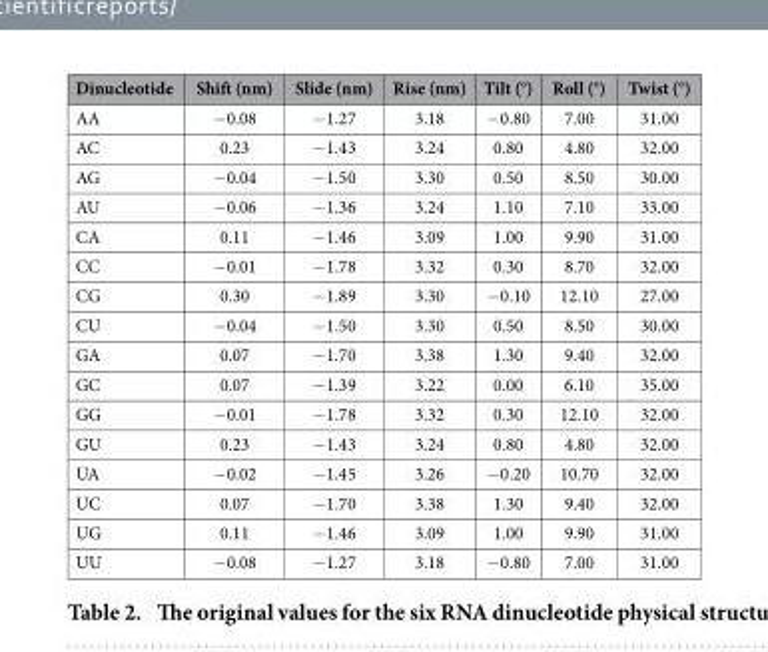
<table><thead><tr><td>Dinucleotide</td><td>Shift (nm)</td><td>Slide (nm)</td><td>Rise (nm)</td><td>Tilt (°)</td><td>Roll (°)</td><td>Twist (°)</td></tr></thead><tbody><tr><td>AA</td><td>− 0.08</td><td>− 1.27</td><td>3.18</td><td>− 0.80</td><td>7.00</td><td>31.00</td></tr><tr><td>AC</td><td>0.23</td><td>− 1.43</td><td>3.24</td><td>0.80</td><td>4.80</td><td>32.00</td></tr><tr><td>AG</td><td>− 0.04</td><td>− 1.50</td><td>3.30</td><td>0.50</td><td>8.50</td><td>30.00</td></tr><tr><td>AU</td><td>− 0.06</td><td>− 1.36</td><td>3.24</td><td>1.10</td><td>7.10</td><td>33.00</td></tr><tr><td>CA</td><td>0.11</td><td>− 1.46</td><td>3.09</td><td>1.00</td><td>9.90</td><td>31.00</td></tr><tr><td>CC</td><td>− 0.01</td><td>− 1.78</td><td>3.32</td><td>0.30</td><td>8.70</td><td>32.00</td></tr><tr><td>CG</td><td>0.30</td><td>− 1.89</td><td>3.30</td><td>− 0.10</td><td>12.10</td><td>27.00</td></tr><tr><td>CU</td><td>− 0.04</td><td>− 1.50</td><td>3.30</td><td>0.50</td><td>8.50</td><td>30.00</td></tr><tr><td>GA</td><td>0.07</td><td>− 1.70</td><td>3.38</td><td>1.30</td><td>9.40</td><td>32.00</td></tr><tr><td>GC</td><td>0.07</td><td>− 1.39</td><td>3.22</td><td>0.00</td><td>6.10</td><td>35.00</td></tr><tr><td>GG</td><td>− 0.01</td><td>− 1.78</td><td>3.32</td><td>0.30</td><td>12.10</td><td>32.00</td></tr><tr><td>GU</td><td>0.23</td><td>− 1.43</td><td>3.24</td><td>0.80</td><td>4.80</td><td>32.00</td></tr><tr><td>UA</td><td>− 0.02</td><td>− 1.45</td><td>3.26</td><td>− 0.20</td><td>10.70</td><td>32.00</td></tr><tr><td>UC</td><td>0.07</td><td>− 1.70</td><td>3.38</td><td>1.30</td><td>9.40</td><td>32.00</td></tr><tr><td>UG</td><td>0.11</td><td>− 1.46</td><td>3.09</td><td>1.00</td><td>9.90</td><td>31.00</td></tr><tr><td>UU</td><td>− 0.08</td><td>− 1.27</td><td>3.18</td><td>− 0.80</td><td>7.00</td><td>31.00</td></tr></tbody></table>